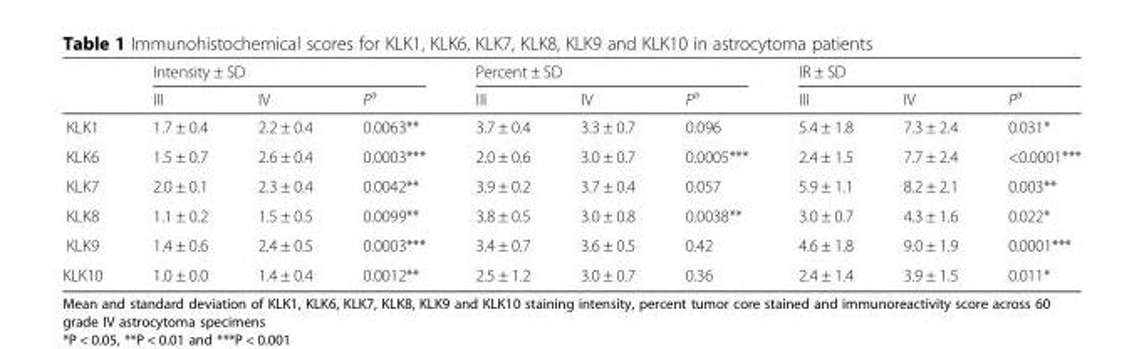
<table><thead><tr><td rowspan="2"></td><td colspan="3">Intensity ± SD</td><td colspan="3">Percent ± SD</td><td colspan="3">IR ± SD</td></tr><tr><td>III</td><td>IV</td><td>P<sup>a</sup></td><td>III</td><td>IV</td><td>P<sup>a</sup></td><td>III</td><td>IV</td><td>P<sup>a</sup></td></tr></thead><tbody><tr><td>KLK1</td><td>1.7 ± 0.4</td><td>2.2 ± 0.4</td><td>0.0063**</td><td>3.7 ± 0.4</td><td>3.3 ± 0.7</td><td>0.096</td><td>5.4 ± 1.8</td><td>7.3 ± 2.4</td><td>0.031*</td></tr><tr><td>KLK6</td><td>1.5 ± 0.7</td><td>2.6 ± 0.4</td><td>0.0003***</td><td>2.0 ± 0.6</td><td>3.0 ± 0.7</td><td>0.0005***</td><td>2.4 ± 1.5</td><td>7.7 ± 2.4</td><td>&lt;0.0001***</td></tr><tr><td>KLK7</td><td>2.0 ± 0.1</td><td>2.3 ± 0.4</td><td>0.0042**</td><td>3.9 ± 0.2</td><td>3.7 ± 0.4</td><td>0.057</td><td>5.9 ± 1.1</td><td>8.2 ± 2.1</td><td>0.003**</td></tr><tr><td>KLK8</td><td>1.1 ± 0.2</td><td>1.5 ± 0.5</td><td>0.0099**</td><td>3.8 ± 0.5</td><td>3.0 ± 0.8</td><td>0.0038**</td><td>3.0 ± 0.7</td><td>4.3 ± 1.6</td><td>0.022*</td></tr><tr><td>KLK9</td><td>1.4 ± 0.6</td><td>2.4 ± 0.5</td><td>0.0003***</td><td>3.4 ± 0.7</td><td>3.6 ± 0.5</td><td>0.42</td><td>4.6 ± 1.8</td><td>9.0 ± 1.9</td><td>0.0001***</td></tr><tr><td>KLK10</td><td>1.0 ± 0.0</td><td>1.4 ± 0.4</td><td>0.0012**</td><td>2.5 ± 1.2</td><td>3.0 ± 0.7</td><td>0.36</td><td>2.4 ± 1.4</td><td>3.9 ± 1.5</td><td>0.011*</td></tr></tbody></table>